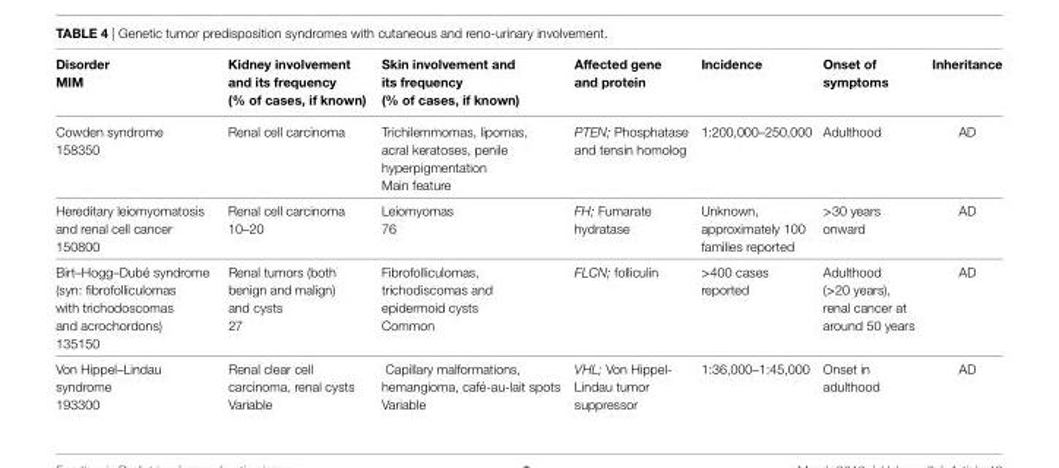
<table><thead><tr><td>Disorder MiM</td><td>Kidney involvement and its frequency (% of cases, if known)</td><td>Skin involvement and its frequency (% of cases, if known)</td><td>Affected gene and protein</td><td>incidence</td><td>Onset of symptoms</td><td>inheritance</td></tr></thead><tbody><tr><td>Cowden syndrome 158350</td><td>Renal cell carcinoma</td><td>Trichilemmomas, lipomas, acral keratoses, penile hyperpigmentation Main feature</td><td>PTEN; Phosphatase and tensin homolog</td><td>1:200,000–250,000</td><td>Adulthood</td><td>AD</td></tr><tr><td>Hereditary leiomyomatosis and renal cell cancer 150800</td><td>Renal cell carcinoma 10–20</td><td>Leiomyomas 76</td><td>FH; Fumarate hydratase</td><td>Unknown, approximately 100 families reported</td><td>&gt;30 years onward</td><td>AD</td></tr><tr><td>Birt–Hogg–Dubé syndrome (syn: fibrofolliculomas with trichodoscomas and acrochordons) 135150</td><td>Renal tumors (both benign and malign) and cysts 27</td><td>Fibrofolliculomas, trichodiscomas and epidermoid cysts Common</td><td>FLCN; folliculin</td><td>&gt;400 cases reported</td><td>Adulthood (&gt;20 years), renal cancer at around 50 years</td><td>AD</td></tr><tr><td>Von Hippel–Lindau syndrome 193300</td><td>Renal clear cell carcinoma, renal cysts Variable</td><td>Capillary malformations, hemangioma, café-au-lait spots Variable</td><td>VHL; Von Hippel- Lindau tumor suppressor</td><td>1:36,000–1:45,000</td><td>Onset in adulthood</td><td>AD</td></tr></tbody></table>